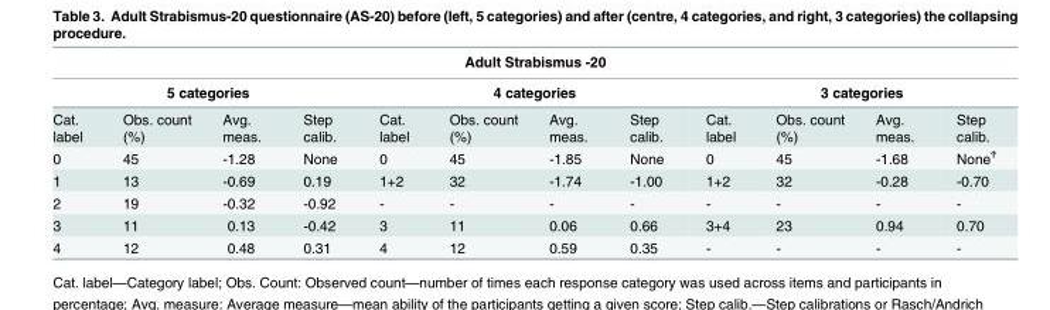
<table><thead><tr><td colspan="12">Adult Strabismus -20</td></tr><tr><td colspan="4">5 categories</td><td colspan="4">4 categories</td><td colspan="4">3 categories</td></tr><tr><td>Cat. label</td><td>Obs. count (%)</td><td>Avg. meas.</td><td>Step calib.</td><td>Cat. label</td><td>Obs. count (%)</td><td>Avg. meas.</td><td>Step calib.</td><td>Cat. label</td><td>Obs. count (%)</td><td>Avg. meas.</td><td>Step calib.</td></tr></thead><tbody><tr><td>0</td><td>45</td><td>-1.28</td><td>None</td><td>0</td><td>45</td><td>-1.85</td><td>None</td><td>0</td><td>45</td><td>-1.68</td><td>None<sup>Ϯ</sup></td></tr><tr><td>1</td><td>13</td><td>-0.69</td><td>0.19</td><td>1+2</td><td>32</td><td>-1.74</td><td>-1.00</td><td>1+2</td><td>32</td><td>-0.28</td><td>-0.70</td></tr><tr><td>2</td><td>19</td><td>-0.32</td><td>-0.92</td><td>-</td><td>-</td><td>-</td><td>-</td><td>-</td><td>-</td><td>-</td><td>-</td></tr><tr><td>3</td><td>11</td><td>0.13</td><td>-0.42</td><td>3</td><td>11</td><td>0.06</td><td>0.66</td><td>3+4</td><td>23</td><td>0.94</td><td>0.70</td></tr><tr><td>4</td><td>12</td><td>0.48</td><td>0.31</td><td>4</td><td>12</td><td>0.59</td><td>0.35</td><td>-</td><td>-</td><td>-</td><td>-</td></tr></tbody></table>